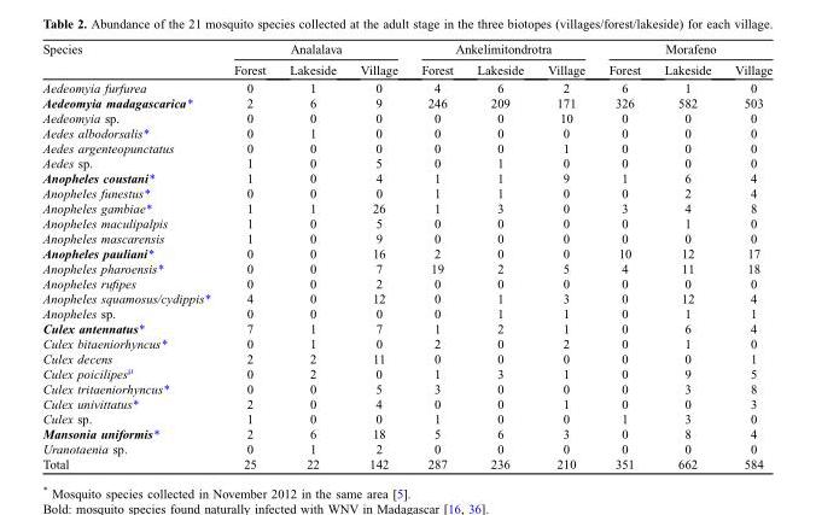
<table><thead><tr><td rowspan="2">Species</td><td colspan="3">Analalava</td><td colspan="3">Ankelimitondrotra</td><td colspan="3">Morafeno</td></tr><tr><td>Forest</td><td>Lakeside</td><td>Village</td><td>Forest</td><td>Lakeside</td><td>Village</td><td>Forest</td><td>Lakeside</td><td>Village</td></tr></thead><tbody><tr><td>Aedeomyia furfurea</td><td>0</td><td>1</td><td>0</td><td>4</td><td>6</td><td>2</td><td>6</td><td>1</td><td>0</td></tr><tr><td>Aedeomyia madagascarica*</td><td>2</td><td>6</td><td>9</td><td>246</td><td>209</td><td>171</td><td>326</td><td>582</td><td>503</td></tr><tr><td>Aedeomyia sp.</td><td>0</td><td>0</td><td>0</td><td>0</td><td>0</td><td>10</td><td>0</td><td>0</td><td>0</td></tr><tr><td>Aedes albodorsalis*</td><td>0</td><td>1</td><td>0</td><td>0</td><td>0</td><td>0</td><td>0</td><td>0</td><td>0</td></tr><tr><td>Aedes argenteopunctatus</td><td>0</td><td>0</td><td>0</td><td>0</td><td>0</td><td>1</td><td>0</td><td>0</td><td>0</td></tr><tr><td>Aedes sp.</td><td>1</td><td>0</td><td>5</td><td>0</td><td>1</td><td>0</td><td>0</td><td>0</td><td>0</td></tr><tr><td>Anopheles coustani*</td><td>1</td><td>0</td><td>4</td><td>1</td><td>1</td><td>9</td><td>1</td><td>6</td><td>4</td></tr><tr><td>Anopheles funestus*</td><td>0</td><td>0</td><td>0</td><td>1</td><td>1</td><td>0</td><td>0</td><td>2</td><td>4</td></tr><tr><td>Anopheles gambiae*</td><td>1</td><td>1</td><td>26</td><td>1</td><td>3</td><td>0</td><td>3</td><td>4</td><td>8</td></tr><tr><td>Anopheles maculipalpis</td><td>1</td><td>0</td><td>5</td><td>0</td><td>0</td><td>0</td><td>0</td><td>1</td><td>0</td></tr><tr><td>Anopheles mascarensis</td><td>1</td><td>0</td><td>9</td><td>0</td><td>0</td><td>0</td><td>0</td><td>0</td><td>0</td></tr><tr><td>Anopheles pauliani*</td><td>0</td><td>0</td><td>16</td><td>2</td><td>0</td><td>0</td><td>10</td><td>12</td><td>17</td></tr><tr><td>Anopheles pharoensis*</td><td>0</td><td>0</td><td>7</td><td>19</td><td>2</td><td>5</td><td>4</td><td>11</td><td>18</td></tr><tr><td>Anopheles rufipes</td><td>0</td><td>0</td><td>2</td><td>0</td><td>0</td><td>0</td><td>0</td><td>0</td><td>0</td></tr><tr><td>Anopheles squamosus/cydippis*</td><td>4</td><td>0</td><td>12</td><td>0</td><td>1</td><td>3</td><td>0</td><td>12</td><td>4</td></tr><tr><td>Anopheles sp.</td><td>0</td><td>0</td><td>0</td><td>0</td><td>1</td><td>1</td><td>0</td><td>1</td><td>1</td></tr><tr><td>Culex antennatus*</td><td>7</td><td>1</td><td>7</td><td>1</td><td>2</td><td>1</td><td>0</td><td>6</td><td>4</td></tr><tr><td>Culex bitaeniorhyncus*</td><td>0</td><td>1</td><td>0</td><td>2</td><td>0</td><td>2</td><td>0</td><td>1</td><td>0</td></tr><tr><td>Culex decens</td><td>2</td><td>2</td><td>11</td><td>0</td><td>0</td><td>0</td><td>0</td><td>0</td><td>1</td></tr><tr><td>Culex poicilipesμ</td><td>0</td><td>2</td><td>0</td><td>1</td><td>3</td><td>1</td><td>0</td><td>9</td><td>5</td></tr><tr><td>Culex tritaeniorhyncus*</td><td>0</td><td>0</td><td>5</td><td>3</td><td>0</td><td>0</td><td>0</td><td>3</td><td>8</td></tr><tr><td>Culex univittatus*</td><td>2</td><td>0</td><td>4</td><td>0</td><td>0</td><td>1</td><td>0</td><td>0</td><td>3</td></tr><tr><td>Culex sp.</td><td>1</td><td>0</td><td>0</td><td>1</td><td>0</td><td>0</td><td>1</td><td>3</td><td>0</td></tr><tr><td>Mansonia uniformis*</td><td>2</td><td>6</td><td>18</td><td>5</td><td>6</td><td>3</td><td>0</td><td>8</td><td>4</td></tr><tr><td>Uranotaenia sp.</td><td>0</td><td>1</td><td>2</td><td>0</td><td>0</td><td>0</td><td>0</td><td>0</td><td>0</td></tr><tr><td>Total</td><td>25</td><td>22</td><td>142</td><td>287</td><td>236</td><td>210</td><td>351</td><td>662</td><td>584</td></tr></tbody></table>